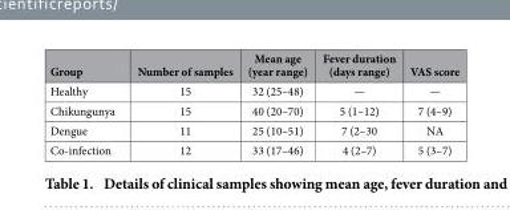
<table><thead><tr><td>Group</td><td>Number of samples</td><td>Mean age (year range)</td><td>Fever duration (days range)</td><td>VAS score</td></tr></thead><tbody><tr><td>Healthy</td><td>15</td><td>32 (25–48)</td><td>—</td><td>—</td></tr><tr><td>Chikungunya</td><td>15</td><td>40 (20–70)</td><td>5 (1–12)</td><td>7 (4–9)</td></tr><tr><td>Dengue</td><td>11</td><td>25 (10–51)</td><td>7 (2–30</td><td>NA</td></tr><tr><td>Co-infection</td><td>12</td><td>33 (17–46)</td><td>4 (2–7)</td><td>5 (3–7)</td></tr></tbody></table>